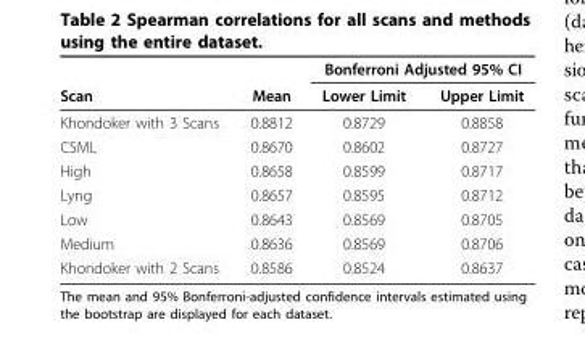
<table><thead><tr><td rowspan="2">Scan</td><td rowspan="2">Mean</td><td colspan="2">Bonferroni Adjusted 95% CI</td></tr><tr><td>Lower Limit</td><td>Upper Limit</td></tr></thead><tbody><tr><td>Khondoker with 3 Scans</td><td>0.8812</td><td>0.8729</td><td>0.8858</td></tr><tr><td>CSML</td><td>0.8670</td><td>0.8602</td><td>0.8727</td></tr><tr><td>High</td><td>0.8658</td><td>0.8599</td><td>0.8717</td></tr><tr><td>Lyng</td><td>0.8657</td><td>0.8595</td><td>0.8712</td></tr><tr><td>Low</td><td>0.8643</td><td>0.8569</td><td>0.8705</td></tr><tr><td>Medium</td><td>0.8636</td><td>0.8569</td><td>0.8706</td></tr><tr><td>Khondoker with 2 Scans</td><td>0.8586</td><td>0.8524</td><td>0.8637</td></tr></tbody></table>